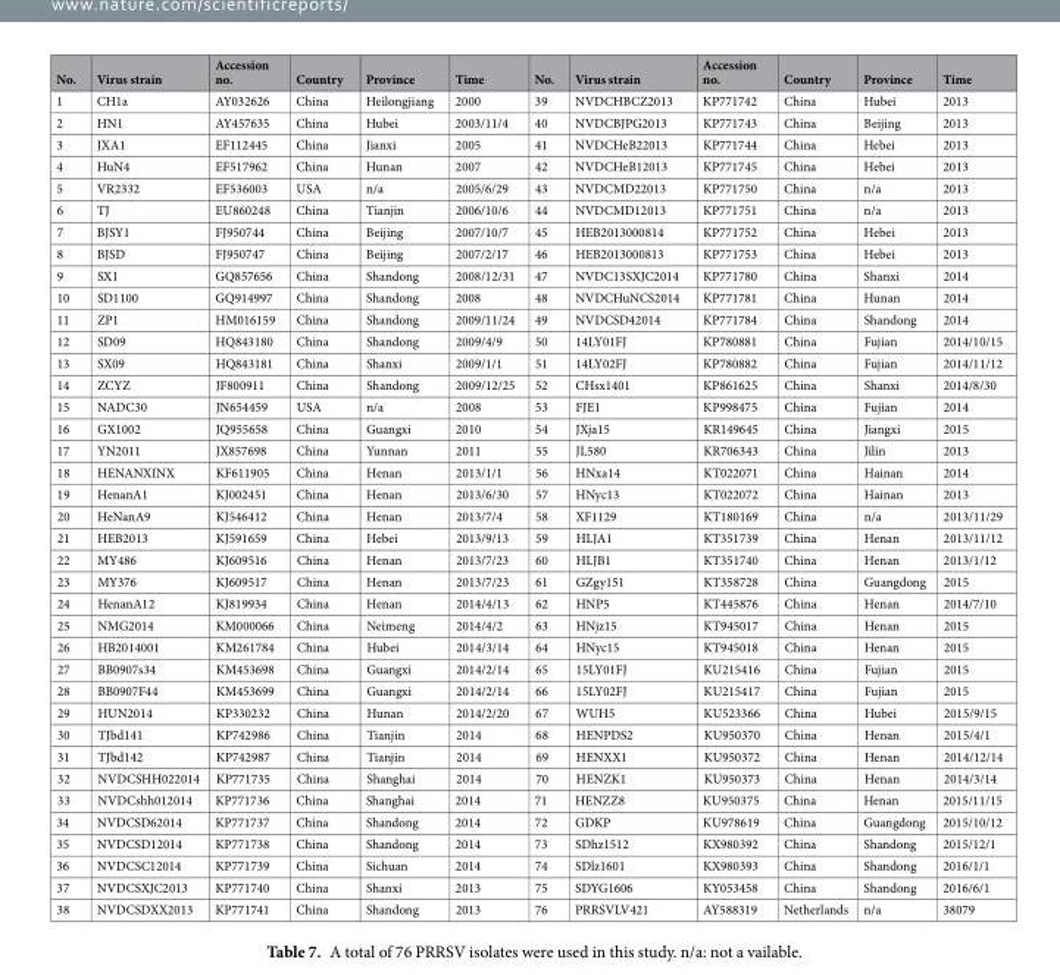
<table><thead><tr><td>No.</td><td>Virus strain</td><td>Accession no.</td><td>Country</td><td>Province</td><td>Time</td><td>No.</td><td>Virus strain</td><td>Accession no.</td><td>Country</td><td>Province</td><td>Time</td></tr></thead><tbody><tr><td>1</td><td>CH1a</td><td>AY032626</td><td>China</td><td>Heilongjiang</td><td>2000</td><td>39</td><td>NVDCHBCZ2013</td><td>KP771742</td><td>China</td><td>Hubei</td><td>2013</td></tr><tr><td>2</td><td>HN1</td><td>AY457635</td><td>China</td><td>Hubei</td><td>2003/11/4</td><td>40</td><td>NVDCBJPG2013</td><td>KP771743</td><td>China</td><td>Beijing</td><td>2013</td></tr><tr><td>3</td><td>JXA1</td><td>EF112445</td><td>China</td><td>Jianxi</td><td>2005</td><td>41</td><td>NVDCHeB22013</td><td>KP771744</td><td>China</td><td>Hebei</td><td>2013</td></tr><tr><td>4</td><td>HuN4</td><td>EF517962</td><td>China</td><td>Hunan</td><td>2007</td><td>42</td><td>NVDCHeB12013</td><td>KP771745</td><td>China</td><td>Hebei</td><td>2013</td></tr><tr><td>5</td><td>VR2332</td><td>EF536003</td><td>USA</td><td>n/a</td><td>2005/6/29</td><td>43</td><td>NVDCMD22013</td><td>KP771750</td><td>China</td><td>n/a</td><td>2013</td></tr><tr><td>6</td><td>TJ</td><td>EU860248</td><td>China</td><td>Tianjin</td><td>2006/10/6</td><td>44</td><td>NVDCMD12013</td><td>KP771751</td><td>China</td><td>n/a</td><td>2013</td></tr><tr><td>7</td><td>BJSY1</td><td>FJ950744</td><td>China</td><td>Beijing</td><td>2007/10/7</td><td>45</td><td>HEB2013000814</td><td>KP771752</td><td>China</td><td>Hebei</td><td>2013</td></tr><tr><td>8</td><td>BJSD</td><td>FJ950747</td><td>China</td><td>Beijing</td><td>2007/2/17</td><td>46</td><td>HEB2013000813</td><td>KP771753</td><td>China</td><td>Hebei</td><td>2013</td></tr><tr><td>9</td><td>SX1</td><td>GQ857656</td><td>China</td><td>Shandong</td><td>2008/12/31</td><td>47</td><td>NVDC13SXJC2014</td><td>KP771780</td><td>China</td><td>Shanxi</td><td>2014</td></tr><tr><td>10</td><td>SD1100</td><td>GQ914997</td><td>China</td><td>Shandong</td><td>2008</td><td>48</td><td>NVDCHuNCS2014</td><td>KP771781</td><td>China</td><td>Hunan</td><td>2014</td></tr><tr><td>11</td><td>ZP1</td><td>HM016159</td><td>China</td><td>Shandong</td><td>2009/11/24</td><td>49</td><td>NVDCSD42014</td><td>KP771784</td><td>China</td><td>Shandong</td><td>2014</td></tr><tr><td>12</td><td>SD09</td><td>HQ843180</td><td>China</td><td>Shandong</td><td>2009/4/9</td><td>50</td><td>14LY01FJ</td><td>KP780881</td><td>China</td><td>Fujian</td><td>2014/10/15</td></tr><tr><td>13</td><td>SX09</td><td>HQ843181</td><td>China</td><td>Shanxi</td><td>2009/1/1</td><td>51</td><td>14LY02FJ</td><td>KP780882</td><td>China</td><td>Fujian</td><td>2014/11/12</td></tr><tr><td>14</td><td>ZCYZ</td><td>JF800911</td><td>China</td><td>Shandong</td><td>2009/12/25</td><td>52</td><td>CHsx1401</td><td>KP861625</td><td>China</td><td>Shanxi</td><td>2014/8/30</td></tr><tr><td>15</td><td>NADC30</td><td>JN654459</td><td>USA</td><td>n/a</td><td>2008</td><td>53</td><td>FJE1</td><td>KP998475</td><td>China</td><td>Fujian</td><td>2014</td></tr><tr><td>16</td><td>GX1002</td><td>JQ955658</td><td>China</td><td>Guangxi</td><td>2010</td><td>54</td><td>JXja15</td><td>KR149645</td><td>China</td><td>Jiangxi</td><td>2015</td></tr><tr><td>17</td><td>YN2011</td><td>JX857698</td><td>China</td><td>Yunnan</td><td>2011</td><td>55</td><td>JL580</td><td>KR706343</td><td>China</td><td>Jilin</td><td>2013</td></tr><tr><td>18</td><td>HENANXINX</td><td>KF611905</td><td>China</td><td>Henan</td><td>2013/1/1</td><td>56</td><td>HNxa14</td><td>KT022071</td><td>China</td><td>Hainan</td><td>2014</td></tr><tr><td>19</td><td>HenanA1</td><td>KJ002451</td><td>China</td><td>Henan</td><td>2013/6/30</td><td>57</td><td>HNyc13</td><td>KT022072</td><td>China</td><td>Hainan</td><td>2013</td></tr><tr><td>20</td><td>HeNanA9</td><td>KJ546412</td><td>China</td><td>Henan</td><td>2013/7/4</td><td>58</td><td>XF1129</td><td>KT180169</td><td>China</td><td>n/a</td><td>2013/11/29</td></tr><tr><td>21</td><td>HEB2013</td><td>KJ591659</td><td>China</td><td>Hebei</td><td>2013/9/13</td><td>59</td><td>HLJA1</td><td>KT351739</td><td>China</td><td>Henan</td><td>2013/11/12</td></tr><tr><td>22</td><td>MY486</td><td>KJ609516</td><td>China</td><td>Henan</td><td>2013/7/23</td><td>60</td><td>HLJB1</td><td>KT351740</td><td>China</td><td>Henan</td><td>2013/1/12</td></tr><tr><td>23</td><td>MY376</td><td>KJ609517</td><td>China</td><td>Henan</td><td>2013/7/23</td><td>61</td><td>GZgy151</td><td>KT358728</td><td>China</td><td>Guangdong</td><td>2015</td></tr><tr><td>24</td><td>HenanA12</td><td>KJ819934</td><td>China</td><td>Henan</td><td>2014/4/13</td><td>62</td><td>HNP5</td><td>KT445876</td><td>China</td><td>Henan</td><td>2014/7/10</td></tr><tr><td>25</td><td>NMG2014</td><td>KM000066</td><td>China</td><td>Neimeng</td><td>2014/4/2</td><td>63</td><td>HNjz15</td><td>KT945017</td><td>China</td><td>Henan</td><td>2015</td></tr><tr><td>26</td><td>HB2014001</td><td>KM261784</td><td>China</td><td>Hubei</td><td>2014/3/14</td><td>64</td><td>HNyc15</td><td>KT945018</td><td>China</td><td>Henan</td><td>2015</td></tr><tr><td>27</td><td>BB0907s34</td><td>KM453698</td><td>China</td><td>Guangxi</td><td>2014/2/14</td><td>65</td><td>15LY01FJ</td><td>KU215416</td><td>China</td><td>Fujian</td><td>2015</td></tr><tr><td>28</td><td>BB0907F44</td><td>KM453699</td><td>China</td><td>Guangxi</td><td>2014/2/14</td><td>66</td><td>15LY02FJ</td><td>KU215417</td><td>China</td><td>Fujian</td><td>2015</td></tr><tr><td>29</td><td>HUN2014</td><td>KP330232</td><td>China</td><td>Hunan</td><td>2014/2/20</td><td>67</td><td>WUH5</td><td>KU523366</td><td>China</td><td>Hubei</td><td>2015/9/15</td></tr><tr><td>30</td><td>TJbd141</td><td>KP742986</td><td>China</td><td>Tianjin</td><td>2014</td><td>68</td><td>HENPDS2</td><td>KU950370</td><td>China</td><td>Henan</td><td>2015/4/1</td></tr><tr><td>31</td><td>TJbd142</td><td>KP742987</td><td>China</td><td>Tianjin</td><td>2014</td><td>69</td><td>HENXX1</td><td>KU950372</td><td>China</td><td>Henan</td><td>2014/12/14</td></tr><tr><td>32</td><td>NVDCSHH022014</td><td>KP771735</td><td>China</td><td>Shanghai</td><td>2014</td><td>70</td><td>HENZK1</td><td>KU950373</td><td>China</td><td>Henan</td><td>2014/3/14</td></tr><tr><td>33</td><td>NVDCshh012014</td><td>KP771736</td><td>China</td><td>Shanghai</td><td>2014</td><td>71</td><td>HENZZ8</td><td>KU950375</td><td>China</td><td>Henan</td><td>2015/11/15</td></tr><tr><td>34</td><td>NVDCSD62014</td><td>KP771737</td><td>China</td><td>Shandong</td><td>2014</td><td>72</td><td>GDKP</td><td>KU978619</td><td>China</td><td>Guangdong</td><td>2015/10/12</td></tr><tr><td>35</td><td>NVDCSD12014</td><td>KP771738</td><td>China</td><td>Shandong</td><td>2014</td><td>73</td><td>SDhz1512</td><td>KX980392</td><td>China</td><td>Shandong</td><td>2015/12/1</td></tr><tr><td>36</td><td>NVDCSC12014</td><td>KP771739</td><td>China</td><td>Sichuan</td><td>2014</td><td>74</td><td>SDlz1601</td><td>KX980393</td><td>China</td><td>Shandong</td><td>2016/1/1</td></tr><tr><td>37</td><td>NVDCSXJC2013</td><td>KP771740</td><td>China</td><td>Shanxi</td><td>2013</td><td>75</td><td>SDYG1606</td><td>KY053458</td><td>China</td><td>Shandong</td><td>2016/6/1</td></tr><tr><td>38</td><td>NVDCSDXX2013</td><td>KP771741</td><td>China</td><td>Shandong</td><td>2013</td><td>76</td><td>PRRSVLV421</td><td>AY588319</td><td>Netherlands</td><td>n/a</td><td>38079</td></tr></tbody></table>